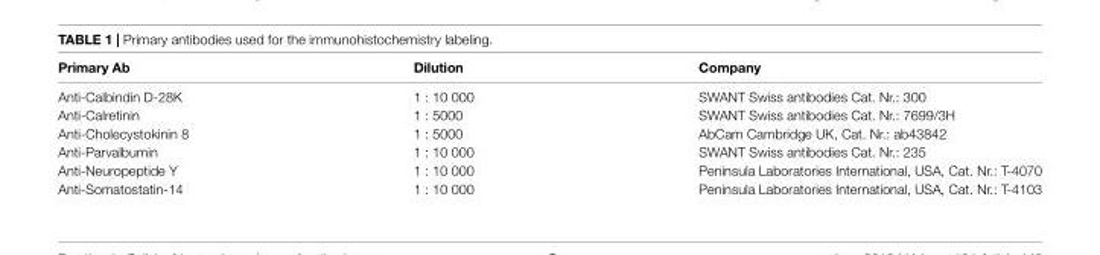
<table><thead><tr><td>Primary Ab</td><td>Dilution</td><td>Company</td></tr></thead><tbody><tr><td>Anti-Calbindin D-28K</td><td>1 : 10 000</td><td>SWANT Swiss antibodies Cat. Nr.: 300</td></tr><tr><td>Anti-Calretinin</td><td>1 : 5000</td><td>SWANT Swiss antibodies Cat. Nr.: 7699/3H</td></tr><tr><td>Anti-Cholecystokinin 8</td><td>1 : 5000</td><td>AbCam Cambridge UK, Cat. Nr.: ab43842</td></tr><tr><td>Anti-Parvalbumin</td><td>1 : 10 000</td><td>SWANT Swiss antibodies Cat. Nr.: 235</td></tr><tr><td>Anti-Neuropeptide Y</td><td>1 : 10 000</td><td>Peninsula Laboratories International, USA, Cat. Nr.: T-4070</td></tr><tr><td>Anti-Somatostatin-14</td><td>1 : 10 000</td><td>Peninsula Laboratories International, USA, Cat. Nr.: T-4103</td></tr></tbody></table>